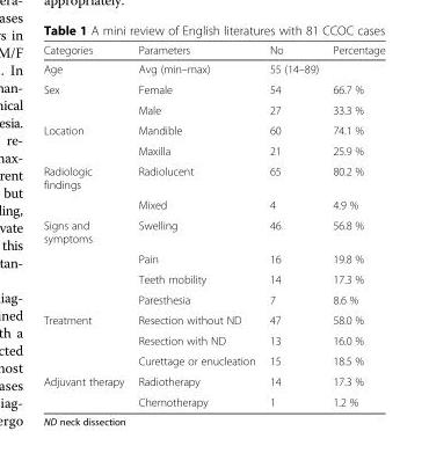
<table><thead><tr><td>Categories</td><td>Parameters</td><td>No</td><td>Percentage</td></tr></thead><tbody><tr><td>Age</td><td>Avg (min–max)</td><td>55 (14–89)</td><td></td></tr><tr><td rowspan="2">Sex</td><td>Female</td><td>54</td><td>66.7 %</td></tr><tr><td>Male</td><td>27</td><td>33.3 %</td></tr><tr><td rowspan="2">Location</td><td>Mandible</td><td>60</td><td>74.1 %</td></tr><tr><td>Maxilla</td><td>21</td><td>25.9 %</td></tr><tr><td rowspan="2">Radiologic findings</td><td>Radiolucent</td><td>65</td><td>80.2 %</td></tr><tr><td>Mixed</td><td>4</td><td>4.9 %</td></tr><tr><td rowspan="4">Signs and symptoms</td><td>Swelling</td><td>46</td><td>56.8 %</td></tr><tr><td>Pain</td><td>16</td><td>19.8 %</td></tr><tr><td>Teeth mobility</td><td>14</td><td>17.3 %</td></tr><tr><td>Paresthesia</td><td>7</td><td>8.6 %</td></tr><tr><td rowspan="3">Treatment</td><td>Resection without ND</td><td>47</td><td>58.0 %</td></tr><tr><td>Resection with ND</td><td>13</td><td>16.0 %</td></tr><tr><td>Curettage or enucleation</td><td>15</td><td>18.5 %</td></tr><tr><td rowspan="2">Adjuvant therapy</td><td>Radiotherapy</td><td>14</td><td>17.3 %</td></tr><tr><td>Chemotherapy</td><td>1</td><td>1.2 %</td></tr></tbody></table>